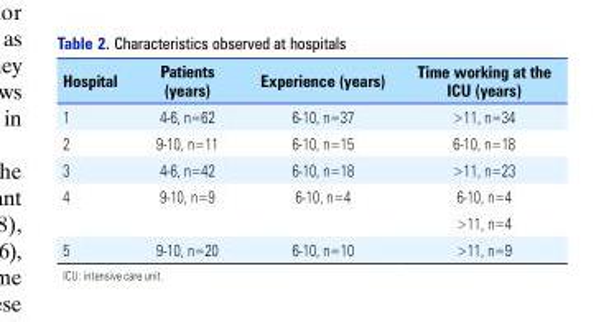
<table><thead><tr><td>Hospital</td><td>Patients (years)</td><td>Experience (years)</td><td>Time working at the ICU (years)</td></tr></thead><tbody><tr><td>1</td><td>4-6, n=62</td><td>6-10, n=37</td><td>&gt;11, n=34</td></tr><tr><td>2</td><td>9-10, n=11</td><td>6-10, n=15</td><td>6-10, n=18</td></tr><tr><td>3</td><td>4-6, n=42</td><td>6-10, n=18</td><td>&gt;11, n=23</td></tr><tr><td>4</td><td>9-10, n=9</td><td>6-10, n=4</td><td>6-10, n=4 &gt;11, n=4</td></tr><tr><td>5</td><td>9-10, n=20</td><td>6-10, n=10</td><td>&gt;11, n=9</td></tr></tbody></table>